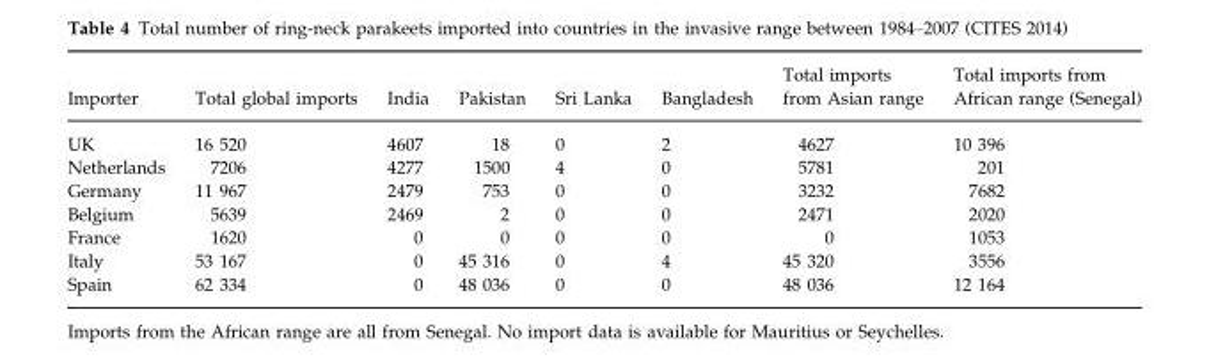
<table><thead><tr><td>Importer</td><td>Total global imports</td><td>India</td><td>Pakistan</td><td>Sri Lanka</td><td>Bangladesh</td><td>Total imports from Asian range</td><td>Total imports from African range (Senegal)</td></tr></thead><tbody><tr><td>UK</td><td>16 520</td><td>4607</td><td>18</td><td>0</td><td>2</td><td>4627</td><td>10 396</td></tr><tr><td>Netherlands</td><td>7206</td><td>4277</td><td>1500</td><td>4</td><td>0</td><td>5781</td><td>201</td></tr><tr><td>Germany</td><td>11 967</td><td>2479</td><td>753</td><td>0</td><td>0</td><td>3232</td><td>7682</td></tr><tr><td>Belgium</td><td>5639</td><td>2469</td><td>2</td><td>0</td><td>0</td><td>2471</td><td>2020</td></tr><tr><td>France</td><td>1620</td><td>0</td><td>0</td><td>0</td><td>0</td><td>0</td><td>1053</td></tr><tr><td>Italy</td><td>53 167</td><td>0</td><td>45 316</td><td>0</td><td>4</td><td>45 320</td><td>3556</td></tr><tr><td>Spain</td><td>62 334</td><td>0</td><td>48 036</td><td>0</td><td>0</td><td>48 036</td><td>12 164</td></tr></tbody></table>